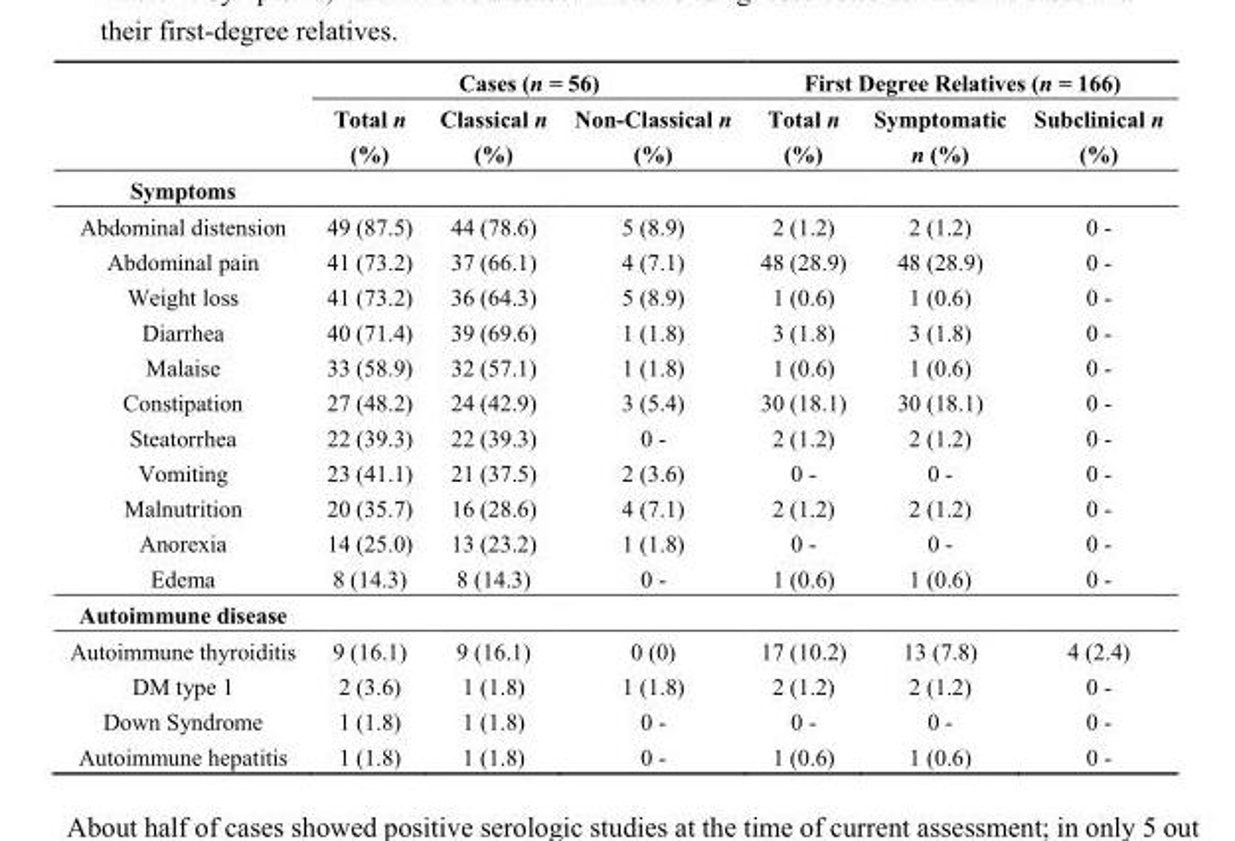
<table><thead><tr><td rowspan="2"></td><td colspan="3">Cases (n = 56)</td><td colspan="3">First Degree Relatives (n = 166)</td></tr><tr><td>Total n (%)</td><td>Classical n (%)</td><td>Non-Classical n (%)</td><td>Total n (%)</td><td>Symptomatic n (%)</td><td>Subclinical n (%)</td></tr></thead><tbody><tr><td colspan="7">Symptoms</td></tr><tr><td>Abdominal distension</td><td>49 (87.5)</td><td>44 (78.6)</td><td>5 (8.9)</td><td>2 (1.2)</td><td>2 (1.2)</td><td>0 -</td></tr><tr><td>Abdominal pain</td><td>41 (73.2)</td><td>37 (66.1)</td><td>4 (7.1)</td><td>48 (28.9)</td><td>48 (28.9)</td><td>0 -</td></tr><tr><td>Weight loss</td><td>41 (73.2)</td><td>36 (64.3)</td><td>5 (8.9)</td><td>1 (0.6)</td><td>1 (0.6)</td><td>0 -</td></tr><tr><td>Diarrhea</td><td>40 (71.4)</td><td>39 (69.6)</td><td>1 (1.8)</td><td>3 (1.8)</td><td>3 (1.8)</td><td>0 -</td></tr><tr><td>Malaise</td><td>33 (58.9)</td><td>32 (57.1)</td><td>1 (1.8)</td><td>1 (0.6)</td><td>1 (0.6)</td><td>0 -</td></tr><tr><td>Constipation</td><td>27 (48.2)</td><td>24 (42.9)</td><td>3 (5.4)</td><td>30 (18.1)</td><td>30 (18.1)</td><td>0 -</td></tr><tr><td>Steatorrhea</td><td>22 (39.3)</td><td>22 (39.3)</td><td>0 -</td><td>2 (1.2)</td><td>2 (1.2)</td><td>0 -</td></tr><tr><td>Vomiting</td><td>23 (41.1)</td><td>21 (37.5)</td><td>2 (3.6)</td><td>0 -</td><td>0 -</td><td>0 -</td></tr><tr><td>Malnutrition</td><td>20 (35.7)</td><td>16 (28.6)</td><td>4 (7.1)</td><td>2 (1.2)</td><td>2 (1.2)</td><td>0 -</td></tr><tr><td>Anorexia</td><td>14 (25.0)</td><td>13 (23.2)</td><td>1 (1.8)</td><td>0 -</td><td>0 -</td><td>0 -</td></tr><tr><td>Edema</td><td>8 (14.3)</td><td>8 (14.3)</td><td>0 -</td><td>1 (0.6)</td><td>1 (0.6)</td><td>0 -</td></tr><tr><td colspan="7">Autoimmune disease</td></tr><tr><td>Autoimmune thyroiditis</td><td>9 (16.1)</td><td>9 (16.1)</td><td>0 (0)</td><td>17 (10.2)</td><td>13 (7.8)</td><td>4 (2.4)</td></tr><tr><td>DM type 1</td><td>2 (3.6)</td><td>1 (1.8)</td><td>1 (1.8)</td><td>2 (1.2)</td><td>2 (1.2)</td><td>0 -</td></tr><tr><td>Down Syndrome</td><td>1 (1.8)</td><td>1 (1.8)</td><td>0 -</td><td>0 -</td><td>0 -</td><td>0 -</td></tr><tr><td>Autoimmune hepatitis</td><td>1 (1.8)</td><td>1 (1.8)</td><td>0 -</td><td>1 (0.6)</td><td>1 (0.6)</td><td>0 -</td></tr></tbody></table>